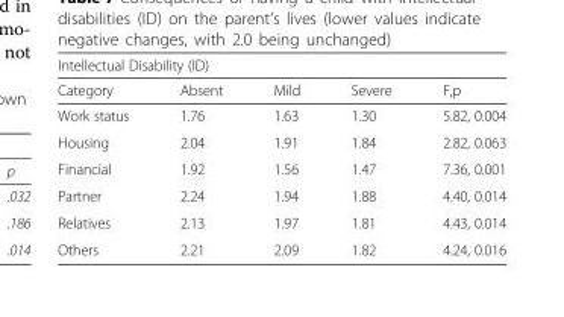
<table><thead><tr><td colspan="5">Intellectual Disability (ID)</td></tr><tr><td>Category</td><td>Absent</td><td>Mild</td><td>Severe</td><td>F,p</td></tr></thead><tbody><tr><td>Work status</td><td>1.76</td><td>1.63</td><td>1.30</td><td>5.82, 0.004</td></tr><tr><td>Housing</td><td>2.04</td><td>1.91</td><td>1.84</td><td>2.82, 0.063</td></tr><tr><td>Financial</td><td>1.92</td><td>1.56</td><td>1.47</td><td>7.36, 0.001</td></tr><tr><td>Partner</td><td>2.24</td><td>1.94</td><td>1.88</td><td>4.40, 0.014</td></tr><tr><td>Relatives</td><td>2.13</td><td>1.97</td><td>1.81</td><td>4.43, 0.014</td></tr><tr><td>Others</td><td>2.21</td><td>2.09</td><td>1.82</td><td>4.24, 0.016</td></tr></tbody></table>